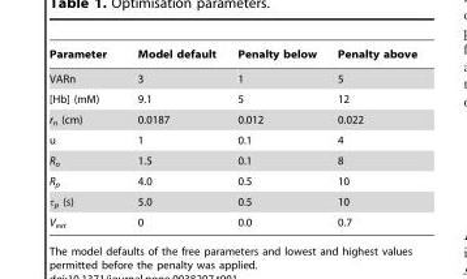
<table><thead><tr><td>Parameter</td><td>Model default</td><td>Penalty below</td><td>Penalty above</td></tr></thead><tbody><tr><td>VARn</td><td>3</td><td>1</td><td>5</td></tr><tr><td>[Hb] (mM)</td><td>9.1</td><td>5</td><td>12</td></tr><tr><td>r<sub>n</sub> (cm)</td><td>0.0187</td><td>0.012</td><td>0.022</td></tr><tr><td>u</td><td>1</td><td>0.1</td><td>4</td></tr><tr><td>R<sub>o</sub></td><td>1.5</td><td>0.1</td><td>8</td></tr><tr><td>R<sub>p</sub></td><td>4.0</td><td>0.5</td><td>10</td></tr><tr><td>τ<sub>p</sub> (s)</td><td>5.0</td><td>0.5</td><td>10</td></tr><tr><td>V<sub>ext</sub></td><td>0</td><td>0.0</td><td>0.7</td></tr></tbody></table>